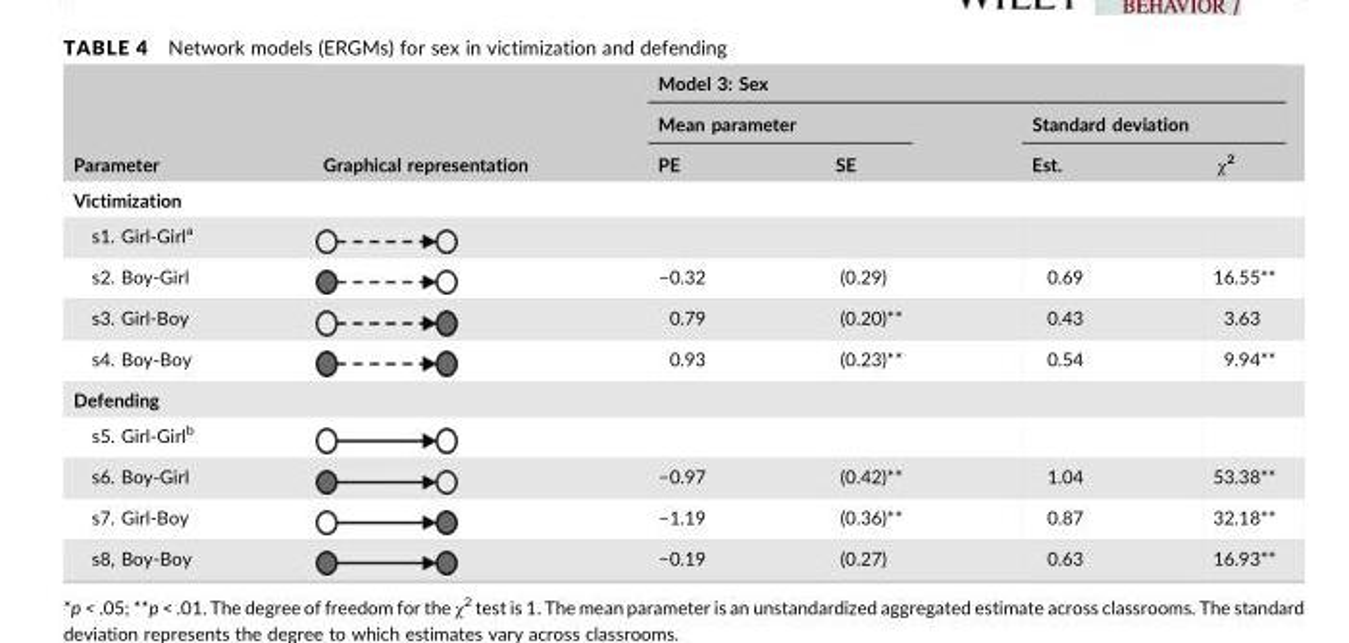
<table><thead><tr><td rowspan="3">Parameter</td><td rowspan="3">Graphical representation</td><td colspan="4">Model 3: Sex</td></tr><tr><td colspan="2">Mean parameter</td><td colspan="2">Standard deviation</td></tr><tr><td>PE</td><td>SE</td><td>Est.</td><td>χ<sup>2</sup></td></tr></thead><tbody><tr><td colspan="6">Victimization</td></tr><tr><td colspan="6">s1. Girl-Girl<sup>a</sup></td></tr><tr><td>s2. Boy-Girl</td><td></td><td>−0.32</td><td>(0.29)</td><td>0.69</td><td>16.55**</td></tr><tr><td>s3. Girl-Boy</td><td></td><td>0.79</td><td>(0.20)**</td><td>0.43</td><td>3.63</td></tr><tr><td>s4. Boy-Boy</td><td></td><td>0.93</td><td>(0.23)**</td><td>0.54</td><td>9.94**</td></tr><tr><td colspan="6">Defending</td></tr><tr><td colspan="6">s5. Girl-Girl<sup>b</sup></td></tr><tr><td>s6. Boy-Girl</td><td></td><td>−0.97</td><td>(0.42)**</td><td>1.04</td><td>53.38**</td></tr><tr><td>s7. Girl-Boy</td><td></td><td>−1.19</td><td>(0.36)**</td><td>0.87</td><td>32.18**</td></tr><tr><td>s8, Boy-Boy</td><td></td><td>−0.19</td><td>(0.27)</td><td>0.63</td><td>16.93**</td></tr></tbody></table>